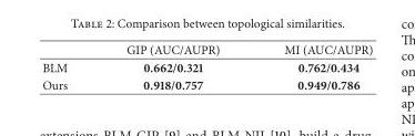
<table><thead><tr><td></td><td>GIP (AUC/AUPR)</td><td>MI (AUC/AUPR)</td></tr></thead><tbody><tr><td>BLM</td><td>0.662/0.321</td><td>0.762/0.434</td></tr><tr><td>Ours</td><td>0.918/0.757</td><td>0.949/0.786</td></tr></tbody></table>